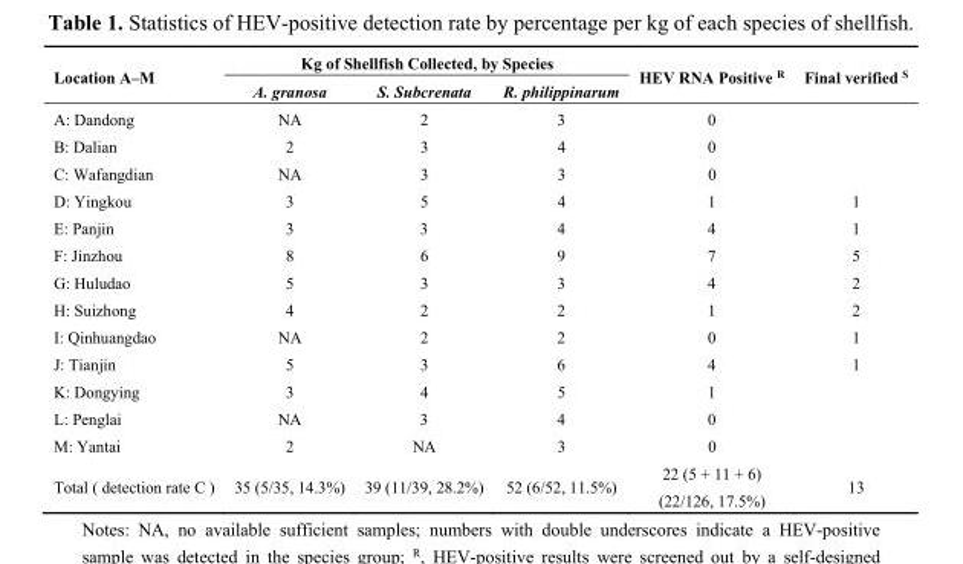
<table><thead><tr><td rowspan="2">Location A–M</td><td colspan="3">Kg of Shellfish Collected, by Species</td><td rowspan="2">HEV RNA Positive <sup>R</sup></td><td rowspan="2">Final verified <sup>S</sup></td></tr><tr><td>A. granosa</td><td>S. Subcrenata</td><td>R. philippinarum</td></tr></thead><tbody><tr><td>A: Dandong</td><td>NA</td><td>2</td><td>3</td><td>0</td><td></td></tr><tr><td>B: Dalian</td><td>2</td><td>3</td><td>4</td><td>0</td><td></td></tr><tr><td>C: Wafangdian</td><td>NA</td><td>3</td><td>3</td><td>0</td><td></td></tr><tr><td>D: Yingkou</td><td>3</td><td>5</td><td>4</td><td>1</td><td>1</td></tr><tr><td>E: Panjin</td><td>3</td><td>3</td><td>4</td><td>4</td><td>1</td></tr><tr><td>F: Jinzhou</td><td>8</td><td>6</td><td>9</td><td>7</td><td>5</td></tr><tr><td>G: Huludao</td><td>5</td><td>3</td><td>3</td><td>4</td><td>2</td></tr><tr><td>H: Suizhong</td><td>4</td><td>2</td><td>2</td><td>1</td><td>2</td></tr><tr><td>I: Qinhuangdao</td><td>NA</td><td>2</td><td>2</td><td>0</td><td>1</td></tr><tr><td>J: Tianjin</td><td>5</td><td>3</td><td>6</td><td>4</td><td>1</td></tr><tr><td>K: Dongying</td><td>3</td><td>4</td><td>5</td><td>1</td><td></td></tr><tr><td>L: Penglai</td><td>NA</td><td>3</td><td>4</td><td>0</td><td></td></tr><tr><td>M: Yantai</td><td>2</td><td>NA</td><td>3</td><td>0</td><td></td></tr><tr><td>Total ( detection rate C )</td><td>35 (5/35, 14.3%)</td><td>39 (11/39, 28.2%)</td><td>52 (6/52, 11.5%)</td><td>22 (5 + 11 + 6) (22/126, 17.5%)</td><td>13</td></tr></tbody></table>